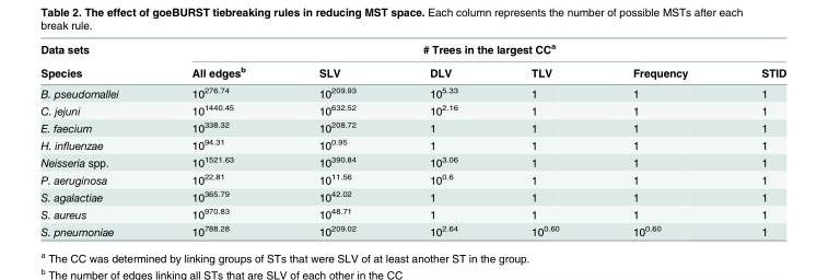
<table><thead><tr><td rowspan="2">Data sets Species</td><td colspan="6"># Trees in the largest CC<sup>a</sup></td></tr><tr><td>All edges<sup>b</sup></td><td>SLV</td><td>DLV</td><td>TLV</td><td>Frequency</td><td>STID</td></tr></thead><tbody><tr><td>B. pseudomallei</td><td>10<sup>276.74</sup></td><td>10<sup>209.93</sup></td><td>10<sup>5.33</sup></td><td>1</td><td>1</td><td>1</td></tr><tr><td>C. jejuni</td><td>10<sup>1440.45</sup></td><td>10<sup>632.52</sup></td><td>10<sup>2.16</sup></td><td>1</td><td>1</td><td>1</td></tr><tr><td>E. faecium</td><td>10<sup>338.32</sup></td><td>10<sup>208.72</sup></td><td>1</td><td>1</td><td>1</td><td>1</td></tr><tr><td>H. influenzae</td><td>10<sup>94.31</sup></td><td>10<sup>0.95</sup></td><td>1</td><td>1</td><td>1</td><td>1</td></tr><tr><td>Neisseria spp.</td><td>10<sup>1521.63</sup></td><td>10<sup>390.84</sup></td><td>10<sup>3.06</sup></td><td>1</td><td>1</td><td>1</td></tr><tr><td>P. aeruginosa</td><td>10<sup>22.81</sup></td><td>10<sup>11.56</sup></td><td>10<sup>0.6</sup></td><td>1</td><td>1</td><td>1</td></tr><tr><td>S. agalactiae</td><td>10<sup>365.79</sup></td><td>10<sup>42.02</sup></td><td>1</td><td>1</td><td>1</td><td>1</td></tr><tr><td>S. aureus</td><td>10<sup>970.83</sup></td><td>10<sup>48.71</sup></td><td>1</td><td>1</td><td>1</td><td>1</td></tr><tr><td>S. pneumoniae</td><td>10<sup>788.28</sup></td><td>10<sup>209.02</sup></td><td>10<sup>2.64</sup></td><td>10<sup>0.60</sup></td><td>10<sup>0.60</sup></td><td>1</td></tr></tbody></table>